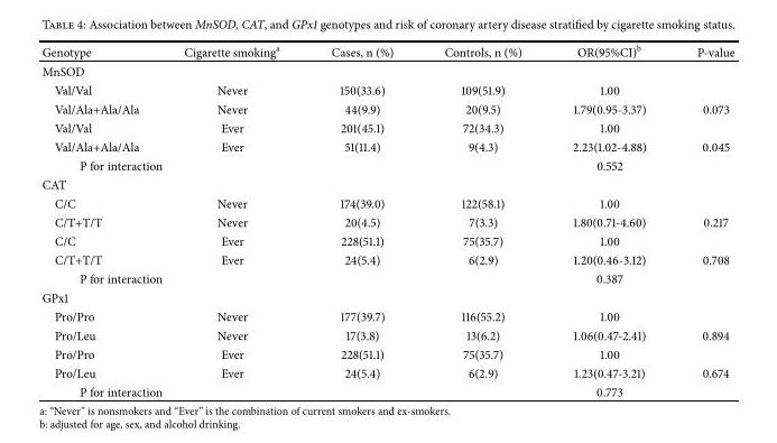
<table><thead><tr><td>Genotype</td><td>Cigarette smoking<sup>a</sup></td><td>Cases, n (%)</td><td>Controls, n (%)</td><td>OR(95%CI)<sup>b</sup></td><td>P-value</td></tr></thead><tbody><tr><td colspan="6">MnSOD</td></tr><tr><td>Val/Val</td><td>Never</td><td>150(33.6)</td><td>109(51.9)</td><td>1.00</td><td></td></tr><tr><td>Val/Ala+Ala/Ala</td><td>Never</td><td>44(9.9)</td><td>20(9.5)</td><td>1.79(0.95-3.37)</td><td>0.073</td></tr><tr><td>Val/Val</td><td>Ever</td><td>201(45.1)</td><td>72(34.3)</td><td>1.00</td><td></td></tr><tr><td>Val/Ala+Ala/Ala</td><td>Ever</td><td>51(11.4)</td><td>9(4.3)</td><td>2.23(1.02-4.88)</td><td>0.045</td></tr><tr><td colspan="2">P for interaction</td><td></td><td></td><td>0.552</td><td></td></tr><tr><td colspan="6">CAT</td></tr><tr><td>C/C</td><td>Never</td><td>174(39.0)</td><td>122(58.1)</td><td>1.00</td><td></td></tr><tr><td>C/T+T/T</td><td>Never</td><td>20(4.5)</td><td>7(3.3)</td><td>1.80(0.71-4.60)</td><td>0.217</td></tr><tr><td>C/C</td><td>Ever</td><td>228(51.1)</td><td>75(35.7)</td><td>1.00</td><td></td></tr><tr><td>C/T+T/T</td><td>Ever</td><td>24(5.4)</td><td>6(2.9)</td><td>1.20(0.46-3.12)</td><td>0.708</td></tr><tr><td colspan="2">P for interaction</td><td></td><td></td><td>0.387</td><td></td></tr><tr><td colspan="6">GPx1</td></tr><tr><td>Pro/Pro</td><td>Never</td><td>177(39.7)</td><td>116(55.2)</td><td>1.00</td><td></td></tr><tr><td>Pro/Leu</td><td>Never</td><td>17(3.8)</td><td>13(6.2)</td><td>1.06(0.47-2.41)</td><td>0.894</td></tr><tr><td>Pro/Pro</td><td>Ever</td><td>228(51.1)</td><td>75(35.7)</td><td>1.00</td><td></td></tr><tr><td>Pro/Leu</td><td>Ever</td><td>24(5.4)</td><td>6(2.9)</td><td>1.23(0.47-3.21)</td><td>0.674</td></tr><tr><td colspan="2">P for interaction</td><td></td><td></td><td>0.773</td><td></td></tr></tbody></table>